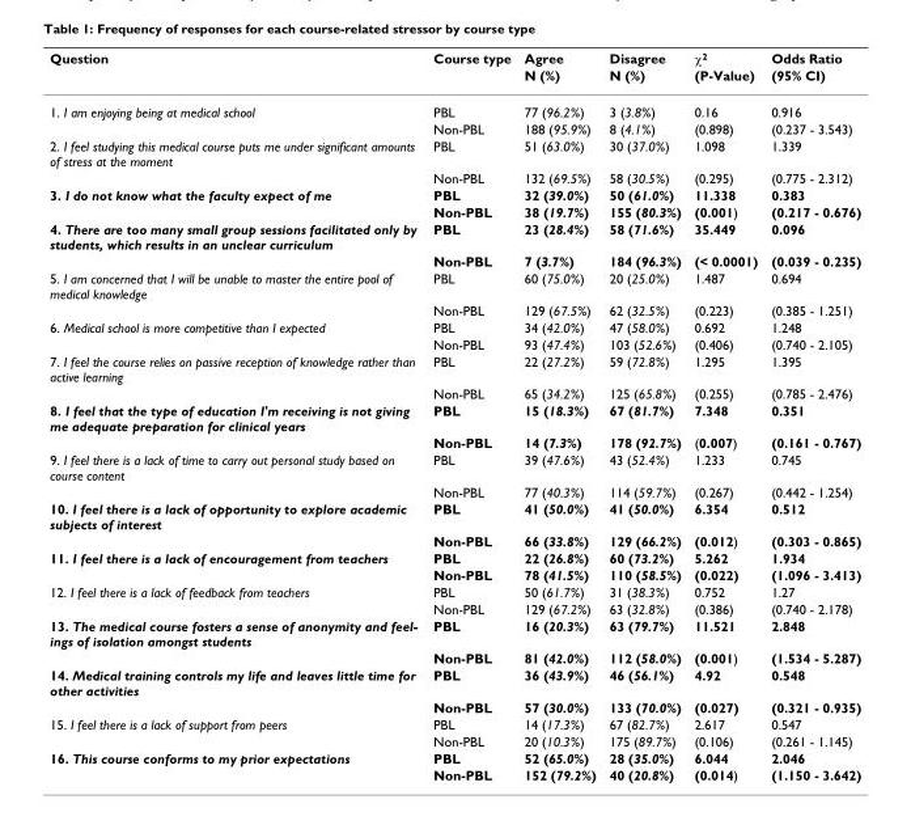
<table><thead><tr><td rowspan="2">Question</td><td rowspan="2">Course type</td><td rowspan="2">Agree N (%)</td><td rowspan="2">Disagree N (%)</td><td rowspan="2">χ<sup>2</sup> (P-Value)</td><td rowspan="2">Odds Ratio (95% CI)</td></tr><tr></tr></thead><tbody><tr><td rowspan="2">1. I am enjoying being at medical school</td><td>PBL</td><td>77 (96.2%)</td><td>3 (3.8%)</td><td>0.16</td><td>0.916</td></tr><tr><td>Non-PBL</td><td>188 (95.9%)</td><td>8 (4.1%)</td><td>(0.898)</td><td>(0.237 - 3.543)</td></tr><tr><td rowspan="2">2. I feel studying this medical course puts me under significant amounts of stress at the moment</td><td>PBL</td><td>51 (63.0%)</td><td>30 (37.0%)</td><td>1.098</td><td>1.339</td></tr><tr><td>Non-PBL</td><td>132 (69.5%)</td><td>58 (30.5%)</td><td>(0.295)</td><td>(0.775 - 2.312)</td></tr><tr><td rowspan="2">3. I do not know what the faculty expect of me</td><td>PBL</td><td>32 (39.0%)</td><td>50 (61.0%)</td><td>11.338</td><td>0.383</td></tr><tr><td>Non-PBL</td><td>38 (19.7%)</td><td>155 (80.3%)</td><td>(0.001)</td><td>(0.217 - 0.676)</td></tr><tr><td rowspan="2">4. There are too many small group sessions facilitated only by students, which results in an unclear curriculum</td><td>PBL</td><td>23 (28.4%)</td><td>58 (71.6%)</td><td>35.449</td><td>0.096</td></tr><tr><td>Non-PBL</td><td>7 (3.7%)</td><td>184 (96.3%)</td><td>(&lt; 0.0001)</td><td>(0.039 - 0.235)</td></tr><tr><td rowspan="2">5. I am concerned that I will be unable to master the entire pool of medical knowledge</td><td>PBL</td><td>60 (75.0%)</td><td>20 (25.0%)</td><td>1.487</td><td>0.694</td></tr><tr><td>Non-PBL</td><td>129 (67.5%)</td><td>62 (32.5%)</td><td>(0.223)</td><td>(0.385 - 1.251)</td></tr><tr><td rowspan="2">6. Medical school is more competitive than I expected</td><td>PBL</td><td>34 (42.0%)</td><td>47 (58.0%)</td><td>0.692</td><td>1.248</td></tr><tr><td>Non-PBL</td><td>93 (47.4%)</td><td>103 (52.6%)</td><td>(0.406)</td><td>(0.740 - 2.105)</td></tr><tr><td rowspan="2">7. I feel the course relies on passive reception of knowledge rather than active learning</td><td>PBL</td><td>22 (27.2%)</td><td>59 (72.8%)</td><td>1.295</td><td>1.395</td></tr><tr><td>Non-PBL</td><td>65 (34.2%)</td><td>125 (65.8%)</td><td>(0.255)</td><td>(0.785 - 2.476)</td></tr><tr><td rowspan="2">8. I feel that the type of education I&#x27;m receiving is not giving me adequate preparation for clinical years</td><td>PBL</td><td>15 (18.3%)</td><td>67 (81.7%)</td><td>7.348</td><td>0.351</td></tr><tr><td>Non-PBL</td><td>14 (7.3%)</td><td>178 (92.7%)</td><td>(0.007)</td><td>(0.161 - 0.767)</td></tr><tr><td rowspan="2">9. I feel there is a lack of time to carry out personal study based on course content</td><td>PBL</td><td>39 (47.6%)</td><td>43 (52.4%)</td><td>1.233</td><td>0.745</td></tr><tr><td>Non-PBL</td><td>77 (40.3%)</td><td>114 (59.7%)</td><td>(0.267)</td><td>(0.442 - 1.254)</td></tr><tr><td rowspan="2">10. I feel there is a lack of opportunity to explore academic subjects of interest</td><td>PBL</td><td>41 (50.0%)</td><td>41 (50.0%)</td><td>6.354</td><td>0.512</td></tr><tr><td>Non-PBL</td><td>66 (33.8%)</td><td>129 (66.2%)</td><td>(0.012)</td><td>(0.303 - 0.865)</td></tr><tr><td rowspan="2">11. I feel there is a lack of encouragement from teachers</td><td>PBL</td><td>22 (26.8%)</td><td>60 (73.2%)</td><td>5.262</td><td>1.934</td></tr><tr><td>Non-PBL</td><td>78 (41.5%)</td><td>110 (58.5%)</td><td>(0.022)</td><td>(1.096 - 3.413)</td></tr><tr><td rowspan="2">12. I feel there is a lack of feedback from teachers</td><td>PBL</td><td>50 (61.7%)</td><td>31 (38.3%)</td><td>0.752</td><td>1.27</td></tr><tr><td>Non-PBL</td><td>129 (67.2%)</td><td>63 (32.8%)</td><td>(0.386)</td><td>(0.740 - 2.178)</td></tr><tr><td rowspan="2">13. The medical course fosters a sense of anonymity and feel- ings of isolation amongst students</td><td>PBL</td><td>16 (20.3%)</td><td>63 (79.7%)</td><td>11.521</td><td>2.848</td></tr><tr><td>Non-PBL</td><td>81 (42.0%)</td><td>112 (58.0%)</td><td>(0.001)</td><td>(1.534 - 5.287)</td></tr><tr><td rowspan="2">14. Medical training controls my life and leaves little time for other activities</td><td>PBL</td><td>36 (43.9%)</td><td>46 (56.1%)</td><td>4.92</td><td>0.548</td></tr><tr><td>Non-PBL</td><td>57 (30.0%)</td><td>133 (70.0%)</td><td>(0.027)</td><td>(0.321 - 0.935)</td></tr><tr><td rowspan="2">15. I feel there is a lack of support from peers</td><td>PBL</td><td>14 (17.3%)</td><td>67 (82.7%)</td><td>2.617</td><td>0.547</td></tr><tr><td>Non-PBL</td><td>20 (10.3%)</td><td>175 (89.7%)</td><td>(0.106)</td><td>(0.261 - 1.145)</td></tr><tr><td rowspan="2">16. This course conforms to my prior expectations</td><td>PBL</td><td>52 (65.0%)</td><td>28 (35.0%)</td><td>6.044</td><td>2.046</td></tr><tr><td>Non-PBL</td><td>152 (79.2%)</td><td>40 (20.8%)</td><td>(0.014)</td><td>(1.150 - 3.642)</td></tr></tbody></table>